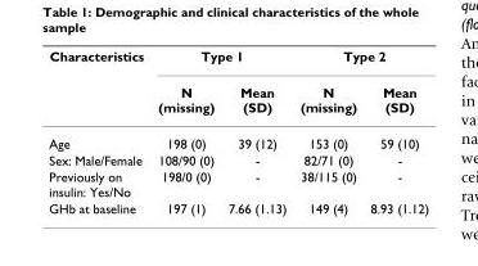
<table><thead><tr><td rowspan="2">Characteristics</td><td colspan="2">Type 1</td><td colspan="2">Type 2</td></tr><tr><td>N (missing)</td><td>Mean (SD)</td><td>N (missing)</td><td>Mean (SD)</td></tr></thead><tbody><tr><td>Age</td><td>198 (0)</td><td>39 (12)</td><td>153 (0)</td><td>59 (10)</td></tr><tr><td>Sex: Male/Female</td><td>108/90 (0)</td><td>-</td><td>82/71 (0)</td><td>-</td></tr><tr><td>Previously on insulin: Yes/No</td><td>198/0 (0)</td><td>-</td><td>38/115 (0)</td><td>-</td></tr><tr><td>GHb at baseline</td><td>197 (1)</td><td>7.66 (1.13)</td><td>149 (4)</td><td>8.93 (1.12)</td></tr></tbody></table>